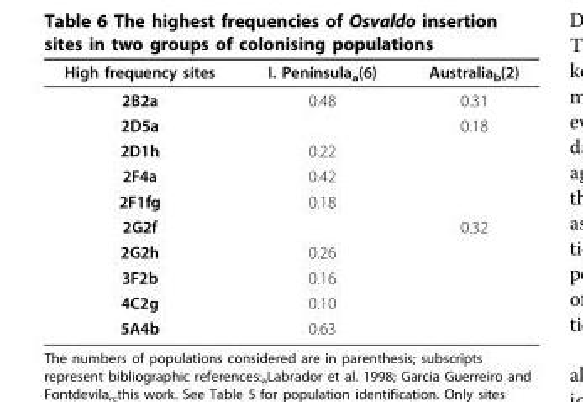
<table><thead><tr><td>High frequency sites</td><td>I. Península<sub>a</sub>(6)</td><td>Australia<sub>b</sub>(2)</td></tr></thead><tbody><tr><td>2B2a</td><td>0.48</td><td>0.31</td></tr><tr><td>2D5a</td><td></td><td>0.18</td></tr><tr><td>2D1h</td><td>0.22</td><td></td></tr><tr><td>2F4a</td><td>0.42</td><td></td></tr><tr><td>2F1fg</td><td>0.18</td><td></td></tr><tr><td>2G2f</td><td></td><td>0.32</td></tr><tr><td>2G2h</td><td>0.26</td><td></td></tr><tr><td>3F2b</td><td>0.16</td><td></td></tr><tr><td>4C2g</td><td>0.10</td><td></td></tr><tr><td>5A4b</td><td>0.63</td><td></td></tr></tbody></table>